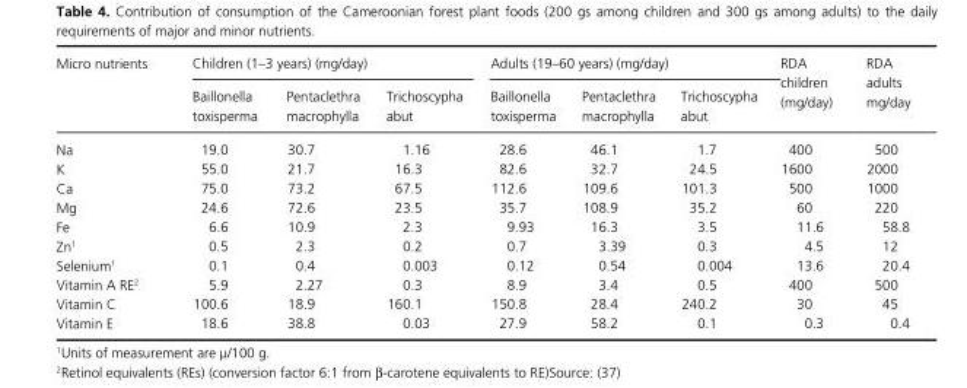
<table><thead><tr><td rowspan="2">Micro nutrients</td><td colspan="3">Children (1–3 years) (mg/day)</td><td colspan="3">Adults (19–60 years) (mg/day)</td><td rowspan="2">RDA children (mg/day)</td><td rowspan="2">RDA adults mg/day</td></tr><tr><td>Baillonella toxisperma</td><td>Pentaclethra macrophylla</td><td>Trichoscypha abut</td><td>Baillonella toxisperma</td><td>Pentaclethra macrophylla</td><td>Trichoscypha abut</td></tr></thead><tbody><tr><td>Na</td><td>19.0</td><td>30.7</td><td>1.16</td><td>28.6</td><td>46.1</td><td>1.7</td><td>400</td><td>500</td></tr><tr><td>K</td><td>55.0</td><td>21.7</td><td>16.3</td><td>82.6</td><td>32.7</td><td>24.5</td><td>1600</td><td>2000</td></tr><tr><td>Ca</td><td>75.0</td><td>73.2</td><td>67.5</td><td>112.6</td><td>109.6</td><td>101.3</td><td>500</td><td>1000</td></tr><tr><td>Mg</td><td>24.6</td><td>72.6</td><td>23.5</td><td>35.7</td><td>108.9</td><td>35.2</td><td>60</td><td>220</td></tr><tr><td>Fe</td><td>6.6</td><td>10.9</td><td>2.3</td><td>9.93</td><td>16.3</td><td>3.5</td><td>11.6</td><td>58.8</td></tr><tr><td>Zn <sup>1</sup></td><td>0.5</td><td>2.3</td><td>0.2</td><td>0.7</td><td>3.39</td><td>0.3</td><td>4.5</td><td>12</td></tr><tr><td>Selenium <sup>1</sup></td><td>0.1</td><td>0.4</td><td>0.003</td><td>0.12</td><td>0.54</td><td>0.004</td><td>13.6</td><td>20.4</td></tr><tr><td>Vitamin A RE <sup>2</sup></td><td>5.9</td><td>2.27</td><td>0.3</td><td>8.9</td><td>3.4</td><td>0.5</td><td>400</td><td>500</td></tr><tr><td>Vitamin C</td><td>100.6</td><td>18.9</td><td>160.1</td><td>150.8</td><td>28.4</td><td>240.2</td><td>30</td><td>45</td></tr><tr><td>Vitamin E</td><td>18.6</td><td>38.8</td><td>0.03</td><td>27.9</td><td>58.2</td><td>0.1</td><td>0.3</td><td>0.4</td></tr></tbody></table>